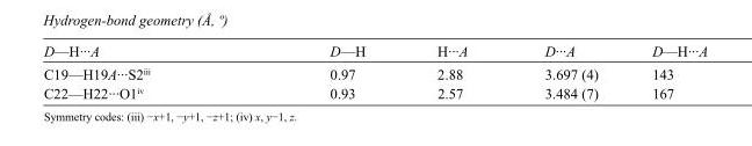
<table><tbody><tr><td>D—H···A</td><td>D—H</td><td>H···A</td><td>D···A</td><td>D—H···A</td></tr><tr><td>C19—H19A···S2<sup>iii</sup></td><td>0.97</td><td>2.88</td><td>3.697 (4)</td><td>143</td></tr><tr><td>C22—H22···O1<sup>iv</sup></td><td>0.93</td><td>2.57</td><td>3.484 (7)</td><td>167</td></tr></tbody></table>